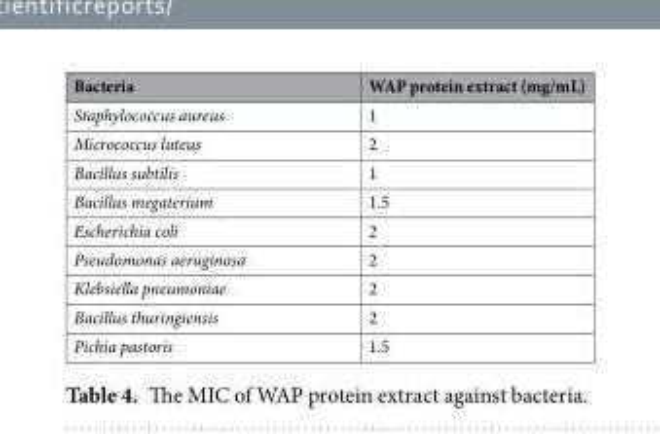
<table><thead><tr><td>Bacteria</td><td>WAP protein extract (mg/mL)</td></tr></thead><tbody><tr><td>Staphylococcus aureus</td><td>1</td></tr><tr><td>Micrococcus luteus</td><td>2</td></tr><tr><td>Bacillus subtilis</td><td>1</td></tr><tr><td>Bacillus megaterium</td><td>1.5</td></tr><tr><td>Escherichia coli</td><td>2</td></tr><tr><td>Pseudomonas aeruginosa</td><td>2</td></tr><tr><td>Klebsiella pneumoniae</td><td>2</td></tr><tr><td>Bacillus thuringiensis</td><td>2</td></tr><tr><td>Pichia pastoris</td><td>1.5</td></tr></tbody></table>